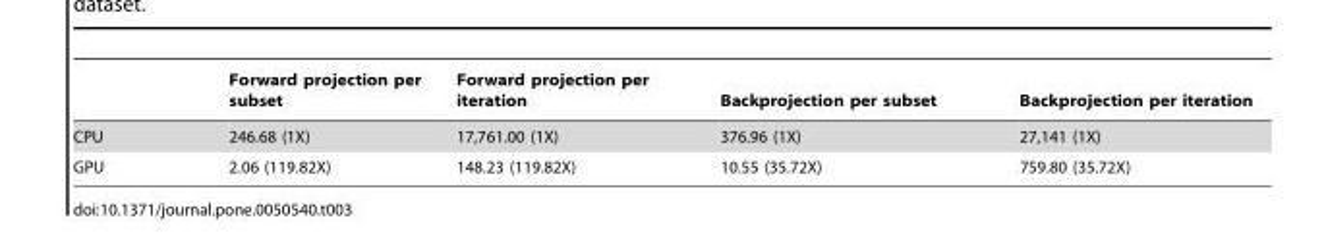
<table><thead><tr><td></td><td>Forward projection per subset</td><td>Forward projection per iteration</td><td>Backprojection per subset</td><td>Backprojection per iteration</td></tr></thead><tbody><tr><td>CPU</td><td>246.68 (1X)</td><td>17,761.00 (1X)</td><td>376.96 (1X)</td><td>27,141 (1X)</td></tr><tr><td>GPU</td><td>2.06 (119.82X)</td><td>148.23 (119.82X)</td><td>10.55 (35.72X)</td><td>759.80 (35.72X)</td></tr></tbody></table>